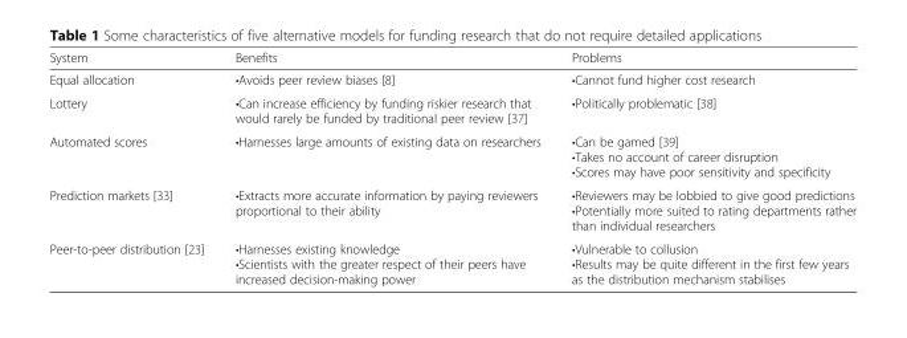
<table><thead><tr><td>System</td><td>Benefits</td><td>Problems</td></tr></thead><tbody><tr><td>Equal allocation</td><td>•Avoids peer review biases [8]</td><td>•Cannot fund higher cost research</td></tr><tr><td>Lottery</td><td>•Can increase efficiency by funding riskier research that would rarely be funded by traditional peer review [37]</td><td>•Politically problematic [38]</td></tr><tr><td>Automated scores</td><td>•Harnesses large amounts of existing data on researchers</td><td>•Can be gamed [39] •Takes no account of career disruption •Scores may have poor sensitivity and specificity</td></tr><tr><td>Prediction markets [33]</td><td>•Extracts more accurate information by paying reviewers proportional to their ability</td><td>•Reviewers may be lobbied to give good predictions •Potentially more suited to rating departments rather than individual researchers</td></tr><tr><td>Peer-to-peer distribution [23]</td><td>•Harnesses existing knowledge •Scientists with the greater respect of their peers have increased decision-making power</td><td>•Vulnerable to collusion •Results may be quite different in the first few years as the distribution mechanism stabilises</td></tr></tbody></table>